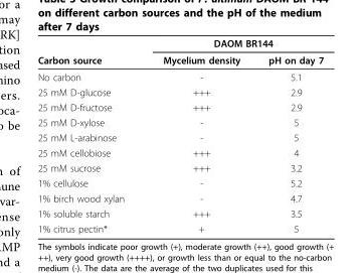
<table><thead><tr><td rowspan="2">Carbon source</td><td colspan="2">DAOM BR144</td></tr><tr><td>Mycelium density</td><td>pH on day 7</td></tr></thead><tbody><tr><td>No carbon</td><td>-</td><td>5.1</td></tr><tr><td>25 mM D-glucose</td><td>+++</td><td>2.9</td></tr><tr><td>25 mM D-fructose</td><td>+++</td><td>2.9</td></tr><tr><td>25 mM D-xylose</td><td>-</td><td>5</td></tr><tr><td>25 mM L-arabinose</td><td>-</td><td>5</td></tr><tr><td>25 mM cellobiose</td><td>+++</td><td>4</td></tr><tr><td>25 mM sucrose</td><td>+++</td><td>3.2</td></tr><tr><td>1% cellulose</td><td>-</td><td>5.2</td></tr><tr><td>1% birch wood xylan</td><td>-</td><td>4.7</td></tr><tr><td>1% soluble starch</td><td>+++</td><td>3.5</td></tr><tr><td>1% citrus pectin*</td><td>+</td><td>5</td></tr></tbody></table>